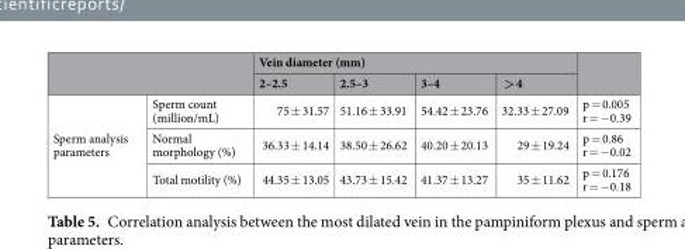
<table><thead><tr><td rowspan="2"></td><td rowspan="2"></td><td colspan="4">Vein diameter (mm)</td><td rowspan="2"></td></tr><tr><td>2–2.5</td><td>2.5–3</td><td>3–4</td><td>&gt; 4</td></tr></thead><tbody><tr><td rowspan="3">Sperm analysis parameters</td><td>Sperm count (million/mL)</td><td>75 ± 31.57</td><td>51.16 ± 33.91</td><td>54.42 ± 23.76</td><td>32.33 ± 27.09</td><td>p = 0.005 r = −0.39</td></tr><tr><td>Normal morphology (%)</td><td>36.33 ± 14.14</td><td>38.50 ± 26.62</td><td>40.20 ± 20.13</td><td>29 ± 19.24</td><td>p = 0.86 r = −0.02</td></tr><tr><td>Total motility (%)</td><td>44.35 ± 13.05</td><td>43.73 ± 15.42</td><td>41.37 ± 13.27</td><td>35 ± 11.62</td><td>p = 0.176 r = −0.18</td></tr></tbody></table>